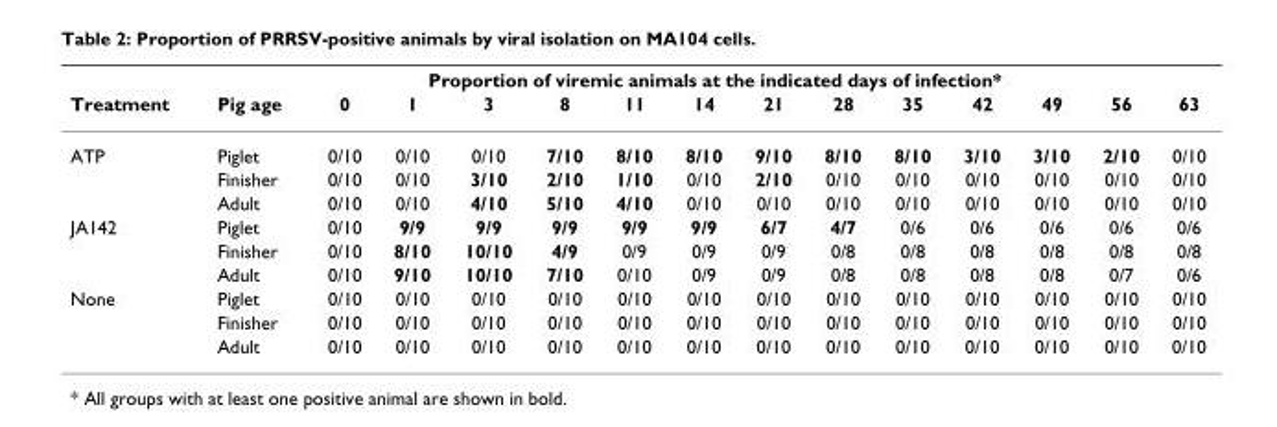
<table><thead><tr><td rowspan="2">Treatment</td><td colspan="14">Proportion of viremic animals at the indicated days of infection*</td></tr><tr><td>Pig age</td><td>0</td><td>1</td><td>3</td><td>8</td><td>11</td><td>14</td><td>21</td><td>28</td><td>35</td><td>42</td><td>49</td><td>56</td><td>63</td></tr></thead><tbody><tr><td rowspan="3">ATP</td><td>Piglet</td><td>0/10</td><td>0/10</td><td>0/10</td><td>7/10</td><td>8/10</td><td>8/10</td><td>9/10</td><td>8/10</td><td>8/10</td><td>3/10</td><td>3/10</td><td>2/10</td><td>0/10</td></tr><tr><td>Finisher</td><td>0/10</td><td>0/10</td><td>3/10</td><td>2/10</td><td>1/10</td><td>0/10</td><td>2/10</td><td>0/10</td><td>0/10</td><td>0/10</td><td>0/10</td><td>0/10</td><td>0/10</td></tr><tr><td>Adult</td><td>0/10</td><td>0/10</td><td>4/10</td><td>5/10</td><td>4/10</td><td>0/10</td><td>0/10</td><td>0/10</td><td>0/10</td><td>0/10</td><td>0/10</td><td>0/10</td><td>0/10</td></tr><tr><td rowspan="3">JA142</td><td>Piglet</td><td>0/10</td><td>9/9</td><td>9/9</td><td>9/9</td><td>9/9</td><td>9/9</td><td>6/7</td><td>4/7</td><td>0/6</td><td>0/6</td><td>0/6</td><td>0/6</td><td>0/6</td></tr><tr><td>Finisher</td><td>0/10</td><td>8/10</td><td>10/10</td><td>4/9</td><td>0/9</td><td>0/9</td><td>0/9</td><td>0/8</td><td>0/8</td><td>0/8</td><td>0/8</td><td>0/8</td><td>0/8</td></tr><tr><td>Adult</td><td>0/10</td><td>9/10</td><td>10/10</td><td>7/10</td><td>0/10</td><td>0/9</td><td>0/9</td><td>0/8</td><td>0/8</td><td>0/8</td><td>0/8</td><td>0/7</td><td>0/6</td></tr><tr><td rowspan="3">None</td><td>Piglet</td><td>0/10</td><td>0/10</td><td>0/10</td><td>0/10</td><td>0/10</td><td>0/10</td><td>0/10</td><td>0/10</td><td>0/10</td><td>0/10</td><td>0/10</td><td>0/10</td><td>0/10</td></tr><tr><td>Finisher</td><td>0/10</td><td>0/10</td><td>0/10</td><td>0/10</td><td>0/10</td><td>0/10</td><td>0/10</td><td>0/10</td><td>0/10</td><td>0/10</td><td>0/10</td><td>0/10</td><td>0/10</td></tr><tr><td>Adult</td><td>0/10</td><td>0/10</td><td>0/10</td><td>0/10</td><td>0/10</td><td>0/10</td><td>0/10</td><td>0/10</td><td>0/10</td><td>0/10</td><td>0/10</td><td>0/10</td><td>0/10</td></tr></tbody></table>